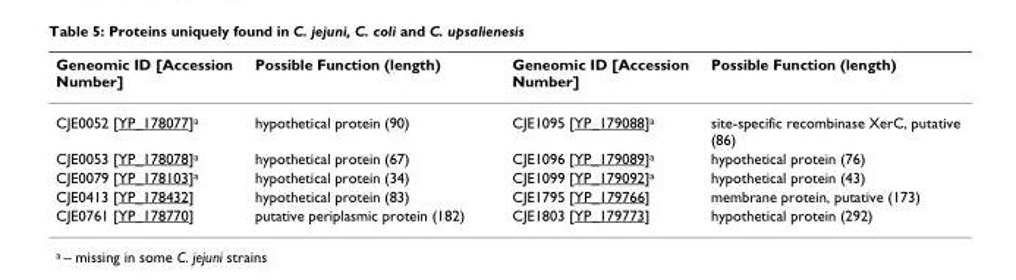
<table><thead><tr><td>Geneomic ID [Accession Number]</td><td>Possible Function (length)</td><td>Geneomic ID [Accession Number]</td><td>Possible Function (length)</td></tr></thead><tbody><tr><td>CJE0052 [YP_178077]a</td><td>hypothetical protein (90)</td><td>CJE1095 [YP_179088]a</td><td>site-specific recombinase XerC, putative (86)</td></tr><tr><td>CJE0053 [YP_178078]a</td><td>hypothetical protein (67)</td><td>CJE1096 [YP_179089]a</td><td>hypothetical protein (76)</td></tr><tr><td>CJE0079 [YP_178103]a</td><td>hypothetical protein (34)</td><td>CJE1099 [YP_179092]a</td><td>hypothetical protein (43)</td></tr><tr><td>CJE0413 [YP_178432]</td><td>hypothetical protein (83)</td><td>CJE1795 [YP_179766]</td><td>membrane protein, putative (173)</td></tr><tr><td>CJE0761 [YP_178770]</td><td>putative periplasmic protein (182)</td><td>CJE1803 [YP_179773]</td><td>hypothetical protein (292)</td></tr></tbody></table>